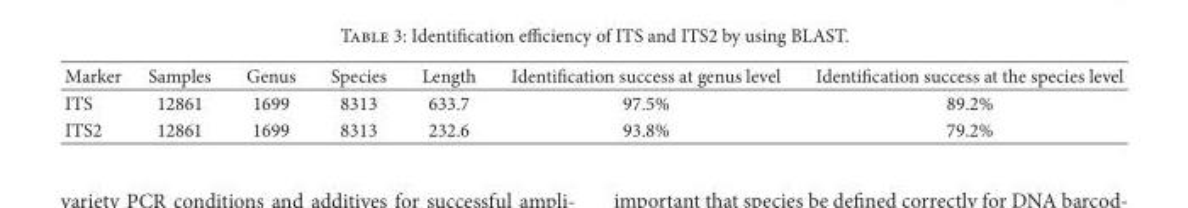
<table><thead><tr><td>Marker</td><td>Samples</td><td>Genus</td><td>Species</td><td>Length</td><td>Identi�cation success at genus level</td><td>Identi�cation success at the species level</td></tr></thead><tbody><tr><td>ITS</td><td>12861</td><td>1699</td><td>8313</td><td>633.7</td><td>97.5%</td><td>89.2%</td></tr><tr><td>ITS2</td><td>12861</td><td>1699</td><td>8313</td><td>232.6</td><td>93.8%</td><td>79.2%</td></tr></tbody></table>